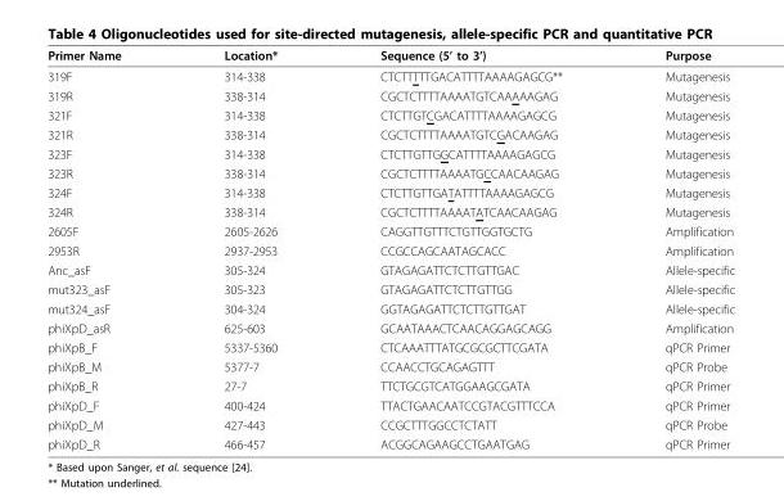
<table><thead><tr><td>Primer Name</td><td>Location*</td><td>Sequence (5’ to 3’)</td><td>Purpose</td></tr></thead><tbody><tr><td>319F</td><td>314-338</td><td>CTCTTTTTGACATTTTAAAAGAGCG**</td><td>Mutagenesis</td></tr><tr><td>319R</td><td>338-314</td><td>CGCTCTTTTAAAATGTCAAAAAGAG</td><td>Mutagenesis</td></tr><tr><td>321F</td><td>314-338</td><td>CTCTTGTCGACATTTTAAAAGAGCG</td><td>Mutagenesis</td></tr><tr><td>321R</td><td>338-314</td><td>CGCTCTTTTAAAATGTCGACAAGAG</td><td>Mutagenesis</td></tr><tr><td>323F</td><td>314-338</td><td>CTCTTGTTGGCATTTTAAAAGAGCG</td><td>Mutagenesis</td></tr><tr><td>323R</td><td>338-314</td><td>CGCTCTTTTAAAATGCCAACAAGAG</td><td>Mutagenesis</td></tr><tr><td>324F</td><td>314-338</td><td>CTCTTGTTGATATTTTAAAAGAGCG</td><td>Mutagenesis</td></tr><tr><td>324R</td><td>338-314</td><td>CGCTCTTTTAAAATATCAACAAGAG</td><td>Mutagenesis</td></tr><tr><td>2605F</td><td>2605-2626</td><td>CAGGTTGTTTCTGTTGGTGCTG</td><td>Amplification</td></tr><tr><td>2953R</td><td>2937-2953</td><td>CCGCCAGCAATAGCACC</td><td>Amplification</td></tr><tr><td>Anc_asF</td><td>305-324</td><td>GTAGAGATTCTCTTGTTGAC</td><td>Allele-specific</td></tr><tr><td>mut323_asF</td><td>305-323</td><td>GTAGAGATTCTCTTGTTGG</td><td>Allele-specific</td></tr><tr><td>mut324_asF</td><td>304-324</td><td>GGTAGAGATTCTCTTGTTGAT</td><td>Allele-specific</td></tr><tr><td>phiXpD_asR</td><td>625-603</td><td>GCAATAAACTCAACAGGAGCAGG</td><td>Amplification</td></tr><tr><td>phiXpB_F</td><td>5337-5360</td><td>CTCAAATTTATGCGCGCTTCGATA</td><td>qPCR Primer</td></tr><tr><td>phiXpB_M</td><td>5377-7</td><td>CCAACCTGCAGAGTTT</td><td>qPCR Probe</td></tr><tr><td>phiXpB_R</td><td>27-7</td><td>TTCTGCGTCATGGAAGCGATA</td><td>qPCR Primer</td></tr><tr><td>phiXpD_F</td><td>400-424</td><td>TTACTGAACAATCCGTACGTTTCCA</td><td>qPCR Primer</td></tr><tr><td>phiXpD_M</td><td>427-443</td><td>CCGCTTTGGCCTCTATT</td><td>qPCR Probe</td></tr><tr><td>phiXpD_R</td><td>466-457</td><td>ACGGCAGAAGCCTGAATGAG</td><td>qPCR Primer</td></tr></tbody></table>